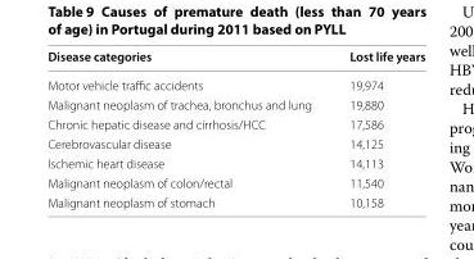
<table><thead><tr><td>Disease categories</td><td>Lost life years</td></tr></thead><tbody><tr><td>Motor vehicle traffic accidents</td><td>19,974</td></tr><tr><td>Malignant neoplasm of trachea, bronchus and lung</td><td>19,880</td></tr><tr><td>Chronic hepatic disease and cirrhosis/HCC</td><td>17,586</td></tr><tr><td>Cerebrovascular disease</td><td>14,125</td></tr><tr><td>Ischemic heart disease</td><td>14,113</td></tr><tr><td>Malignant neoplasm of colon/rectal</td><td>11,540</td></tr><tr><td>Malignant neoplasm of stomach</td><td>10,158</td></tr></tbody></table>